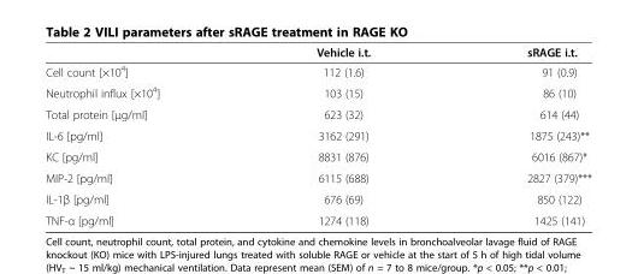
<table><thead><tr><td></td><td>Vehicle i.t.</td><td>sRAGE i.t.</td></tr></thead><tbody><tr><td>Cell count [×10<sup>4</sup>]</td><td>112 (1.6)</td><td>91 (0.9)</td></tr><tr><td>Neutrophil influx [×10<sup>4</sup>]</td><td>103 (15)</td><td>86 (10)</td></tr><tr><td>Total protein [μg/ml]</td><td>623 (32)</td><td>614 (44)</td></tr><tr><td>IL-6 [pg/ml]</td><td>3162 (291)</td><td>1875 (243)**</td></tr><tr><td>KC [pg/ml]</td><td>8831 (876)</td><td>6016 (867)*</td></tr><tr><td>MIP-2 [pg/ml]</td><td>6115 (688)</td><td>2827 (379)***</td></tr><tr><td>IL-1β [pg/ml]</td><td>676 (69)</td><td>850 (122)</td></tr><tr><td>TNF-α [pg/ml]</td><td>1274 (118)</td><td>1425 (141)</td></tr></tbody></table>